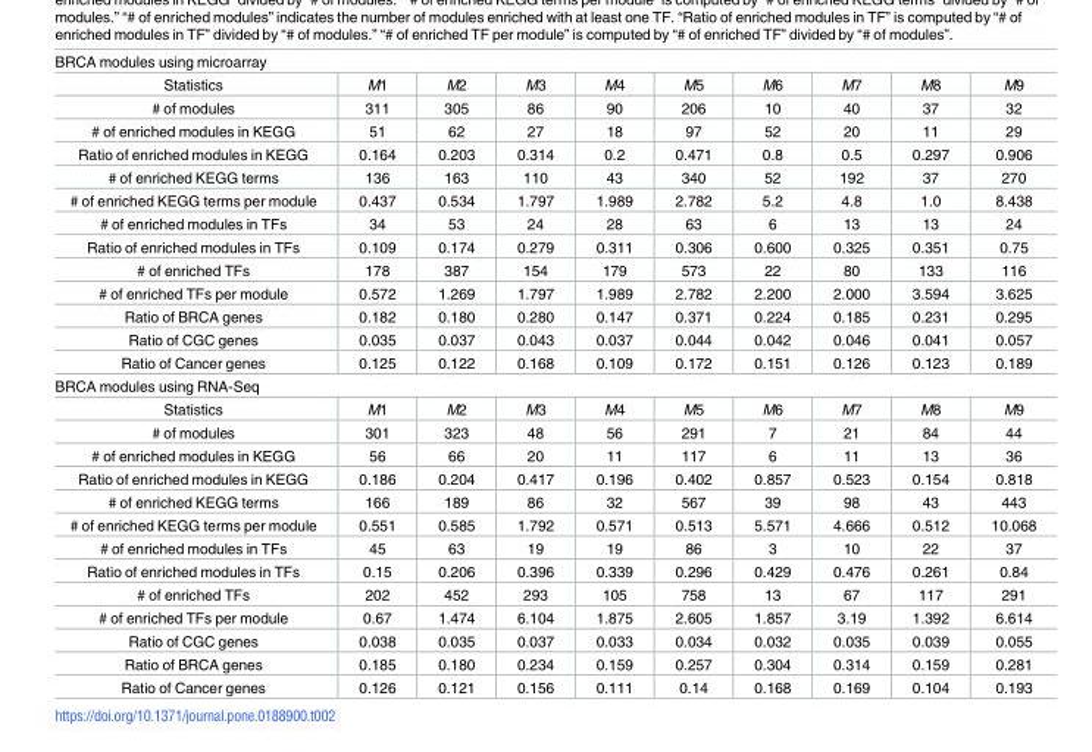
<table><tbody><tr><td colspan="10">BRCA modules using microarray</td></tr><tr><td>Statistics</td><td>M1</td><td>M2</td><td>M3</td><td>M4</td><td>M5</td><td>M6</td><td>M7</td><td>M8</td><td>M9</td></tr><tr><td># of modules</td><td>311</td><td>305</td><td>86</td><td>90</td><td>206</td><td>10</td><td>40</td><td>37</td><td>32</td></tr><tr><td># of enriched modules in KEGG</td><td>51</td><td>62</td><td>27</td><td>18</td><td>97</td><td>52</td><td>20</td><td>11</td><td>29</td></tr><tr><td>Ratio of enriched modules in KEGG</td><td>0.164</td><td>0.203</td><td>0.314</td><td>0.2</td><td>0.471</td><td>0.8</td><td>0.5</td><td>0.297</td><td>0.906</td></tr><tr><td># of enriched KEGG terms</td><td>136</td><td>163</td><td>110</td><td>43</td><td>340</td><td>52</td><td>192</td><td>37</td><td>270</td></tr><tr><td># of enriched KEGG terms per module</td><td>0.437</td><td>0.534</td><td>1.797</td><td>1.989</td><td>2.782</td><td>5.2</td><td>4.8</td><td>1.0</td><td>8.438</td></tr><tr><td># of enriched modules in TFs</td><td>34</td><td>53</td><td>24</td><td>28</td><td>63</td><td>6</td><td>13</td><td>13</td><td>24</td></tr><tr><td>Ratio of enriched modules in TFs</td><td>0.109</td><td>0.174</td><td>0.279</td><td>0.311</td><td>0.306</td><td>0.600</td><td>0.325</td><td>0.351</td><td>0.75</td></tr><tr><td># of enriched TFs</td><td>178</td><td>387</td><td>154</td><td>179</td><td>573</td><td>22</td><td>80</td><td>133</td><td>116</td></tr><tr><td># of enriched TFs per module</td><td>0.572</td><td>1.269</td><td>1.797</td><td>1.989</td><td>2.782</td><td>2.200</td><td>2.000</td><td>3.594</td><td>3.625</td></tr><tr><td>Ratio of BRCA genes</td><td>0.182</td><td>0.180</td><td>0.280</td><td>0.147</td><td>0.371</td><td>0.224</td><td>0.185</td><td>0.231</td><td>0.295</td></tr><tr><td>Ratio of CGC genes</td><td>0.035</td><td>0.037</td><td>0.043</td><td>0.037</td><td>0.044</td><td>0.042</td><td>0.046</td><td>0.041</td><td>0.057</td></tr><tr><td>Ratio of Cancer genes</td><td>0.125</td><td>0.122</td><td>0.168</td><td>0.109</td><td>0.172</td><td>0.151</td><td>0.126</td><td>0.123</td><td>0.189</td></tr><tr><td colspan="10">BRCA modules using RNA-Seq</td></tr><tr><td>Statistics</td><td>M1</td><td>M2</td><td>M3</td><td>M4</td><td>M5</td><td>M6</td><td>M7</td><td>M8</td><td>M9</td></tr><tr><td># of modules</td><td>301</td><td>323</td><td>48</td><td>56</td><td>291</td><td>7</td><td>21</td><td>84</td><td>44</td></tr><tr><td># of enriched modules in KEGG</td><td>56</td><td>66</td><td>20</td><td>11</td><td>117</td><td>6</td><td>11</td><td>13</td><td>36</td></tr><tr><td>Ratio of enriched modules in KEGG</td><td>0.186</td><td>0.204</td><td>0.417</td><td>0.196</td><td>0.402</td><td>0.857</td><td>0.523</td><td>0.154</td><td>0.818</td></tr><tr><td># of enriched KEGG terms</td><td>166</td><td>189</td><td>86</td><td>32</td><td>567</td><td>39</td><td>98</td><td>43</td><td>443</td></tr><tr><td># of enriched KEGG terms per module</td><td>0.551</td><td>0.585</td><td>1.792</td><td>0.571</td><td>0.513</td><td>5.571</td><td>4.666</td><td>0.512</td><td>10.068</td></tr><tr><td># of enriched modules in TFs</td><td>45</td><td>63</td><td>19</td><td>19</td><td>86</td><td>3</td><td>10</td><td>22</td><td>37</td></tr><tr><td>Ratio of enriched modules in TFs</td><td>0.15</td><td>0.206</td><td>0.396</td><td>0.339</td><td>0.296</td><td>0.429</td><td>0.476</td><td>0.261</td><td>0.84</td></tr><tr><td># of enriched TFs</td><td>202</td><td>452</td><td>293</td><td>105</td><td>758</td><td>13</td><td>67</td><td>117</td><td>291</td></tr><tr><td># of enriched TFs per module</td><td>0.67</td><td>1.474</td><td>6.104</td><td>1.875</td><td>2.605</td><td>1.857</td><td>3.19</td><td>1.392</td><td>6.614</td></tr><tr><td>Ratio of CGC genes</td><td>0.038</td><td>0.035</td><td>0.037</td><td>0.033</td><td>0.034</td><td>0.032</td><td>0.035</td><td>0.039</td><td>0.055</td></tr><tr><td>Ratio of BRCA genes</td><td>0.185</td><td>0.180</td><td>0.234</td><td>0.159</td><td>0.257</td><td>0.304</td><td>0.314</td><td>0.159</td><td>0.281</td></tr><tr><td>Ratio of Cancer genes</td><td>0.126</td><td>0.121</td><td>0.156</td><td>0.111</td><td>0.14</td><td>0.168</td><td>0.169</td><td>0.104</td><td>0.193</td></tr></tbody></table>